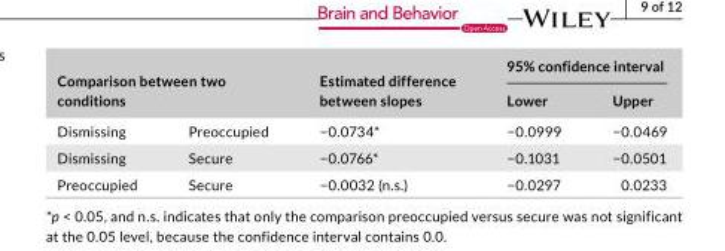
<table><thead><tr><td rowspan="2" colspan="2">Comparison between two conditions</td><td rowspan="3">Estimated difference between slopes −0.0734*</td><td colspan="2">95% confidence interval</td></tr><tr><td rowspan="2">Lower −0.0999</td><td rowspan="2">Upper −0.0469</td></tr><tr><td>Dismissing</td><td>Preoccupied</td></tr></thead><tbody><tr><td>Dismissing</td><td>Secure</td><td>−0.0766*</td><td>−0.1031</td><td>−0.0501</td></tr><tr><td>Preoccupied</td><td>Secure</td><td>−0.0032 (n.s.)</td><td>−0.0297</td><td>0.0233</td></tr></tbody></table>